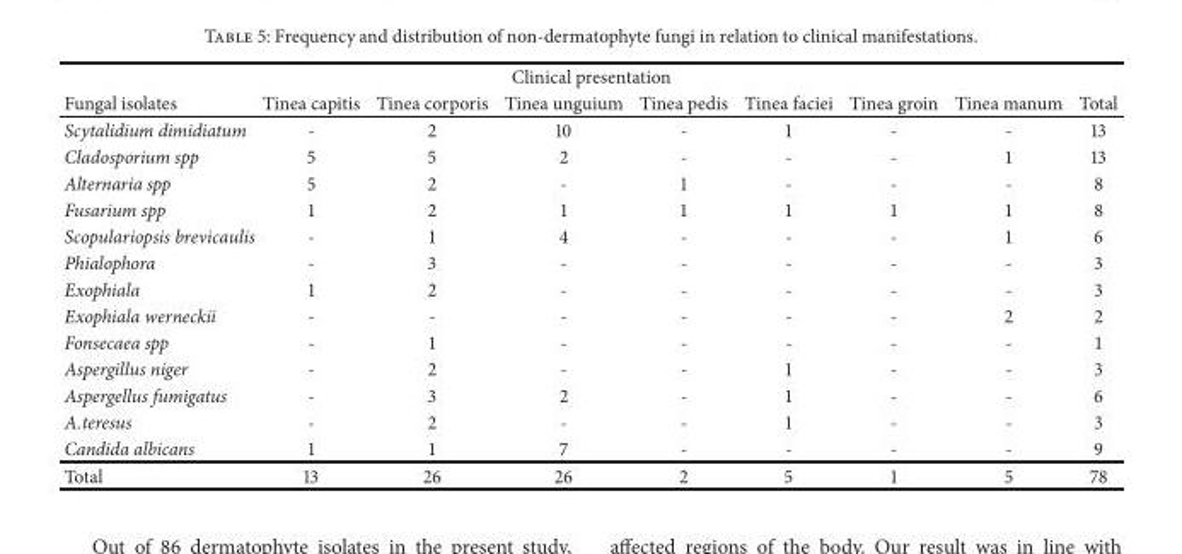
<table><thead><tr><td colspan="9">Clinical presentation</td></tr><tr><td>Fungal isolates</td><td>Tinea capitis</td><td>Tinea corporis</td><td>Tinea unguium</td><td>Tinea pedis</td><td>Tinea faciei</td><td>Tinea groin</td><td>Tinea manum</td><td>Total</td></tr></thead><tbody><tr><td>Scytalidium dimidiatum</td><td>-</td><td>2</td><td>10</td><td>-</td><td>1</td><td>-</td><td>-</td><td>13</td></tr><tr><td>Cladosporium spp</td><td>5</td><td>5</td><td>2</td><td>-</td><td>-</td><td>-</td><td>1</td><td>13</td></tr><tr><td>Alternaria spp</td><td>5</td><td>2</td><td>-</td><td>1</td><td>-</td><td>-</td><td>-</td><td>8</td></tr><tr><td>Fusarium spp</td><td>1</td><td>2</td><td>1</td><td>1</td><td>1</td><td>1</td><td>1</td><td>8</td></tr><tr><td>Scopulariopsis brevicaulis</td><td>-</td><td>1</td><td>4</td><td>-</td><td>-</td><td>-</td><td>1</td><td>6</td></tr><tr><td>Phialophora</td><td>-</td><td>3</td><td>-</td><td>-</td><td>-</td><td>-</td><td>-</td><td>3</td></tr><tr><td>Exophiala</td><td>1</td><td>2</td><td>-</td><td>-</td><td>-</td><td>-</td><td>-</td><td>3</td></tr><tr><td>Exophiala werneckii</td><td>-</td><td>-</td><td>-</td><td>-</td><td>-</td><td>-</td><td>2</td><td>2</td></tr><tr><td>Fonsecaea spp</td><td>-</td><td>1</td><td>-</td><td>-</td><td>-</td><td>-</td><td>-</td><td>1</td></tr><tr><td>Aspergillus niger</td><td>-</td><td>2</td><td>-</td><td>-</td><td>1</td><td>-</td><td>-</td><td>3</td></tr><tr><td>Aspergellus fumigatus</td><td>-</td><td>3</td><td>2</td><td>-</td><td>1</td><td>-</td><td>-</td><td>6</td></tr><tr><td>A.teresus</td><td>-</td><td>2</td><td>-</td><td>-</td><td>1</td><td>-</td><td>-</td><td>3</td></tr><tr><td>Candida albicans</td><td>1</td><td>1</td><td>7</td><td>-</td><td>-</td><td>-</td><td>-</td><td>9</td></tr><tr><td>Total</td><td>13</td><td>26</td><td>26</td><td>2</td><td>5</td><td>1</td><td>5</td><td>78</td></tr></tbody></table>